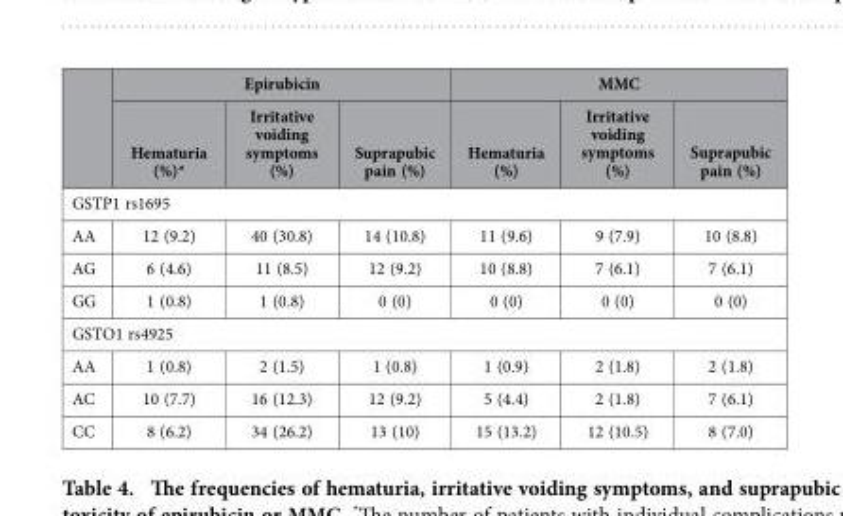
<table><thead><tr><td rowspan="2"></td><td colspan="3">Epirubicin</td><td colspan="3">MMC</td></tr><tr><td>Hematuria (%)*</td><td>Irritative voiding symptoms (%)</td><td>Suprapubic pain (%)</td><td>Hematuria (%)</td><td>Irritative voiding symptoms (%)</td><td>Suprapubic pain (%)</td></tr></thead><tbody><tr><td colspan="7">GSTP1 rs1695</td></tr><tr><td>AA</td><td>12 (9.2)</td><td>40 (30.8)</td><td>14 (10.8)</td><td>11 (9.6)</td><td>9 (7.9)</td><td>10 (8.8)</td></tr><tr><td>AG</td><td>6 (4.6)</td><td>11 (8.5)</td><td>12 (9.2)</td><td>10 (8.8)</td><td>7 (6.1)</td><td>7 (6.1)</td></tr><tr><td>GG</td><td>1 (0.8)</td><td>1 (0.8)</td><td>0 (0)</td><td>0 (0)</td><td>0 (0)</td><td>0 (0)</td></tr><tr><td colspan="7">GSTO1 rs4925</td></tr><tr><td>AA</td><td>1 (0.8)</td><td>2 (1.5)</td><td>1 (0.8)</td><td>1 (0.9)</td><td>2 (1.8)</td><td>2 (1.8)</td></tr><tr><td>AC</td><td>10 (7.7)</td><td>16 (12.3)</td><td>12 (9.2)</td><td>5 (4.4)</td><td>2 (1.8)</td><td>7 (6.1)</td></tr><tr><td>CC</td><td>8 (6.2)</td><td>34 (26.2)</td><td>13 (10)</td><td>15 (13.2)</td><td>12 (10.5)</td><td>8 (7.0)</td></tr></tbody></table>